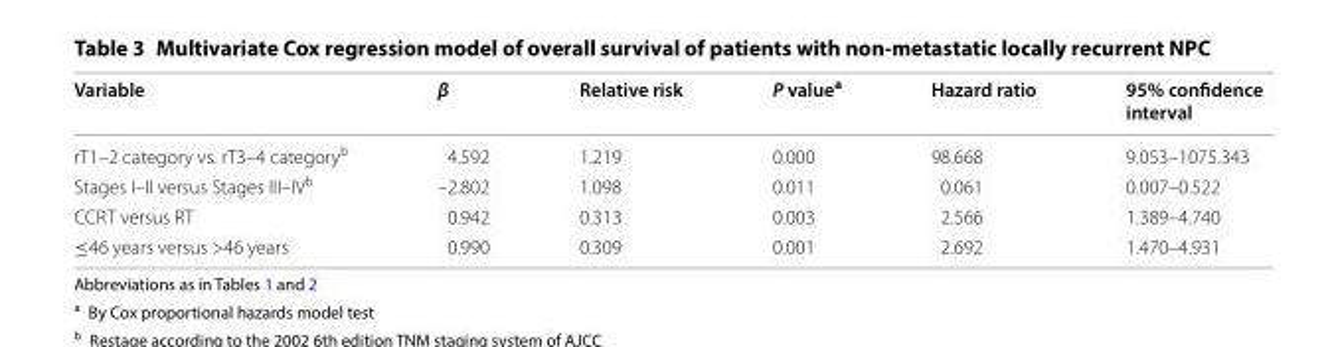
<table><thead><tr><td>Variable</td><td>β</td><td>Relative risk</td><td>P value<sup>a</sup></td><td>Hazard ratio</td><td>95% confidence interval</td></tr></thead><tbody><tr><td>rT1–2 category vs. rT3–4 category<sup>b</sup></td><td>4.592</td><td>1.219</td><td>0.000</td><td>98.668</td><td>9.053–1075.343</td></tr><tr><td>Stages I–II versus Stages III–IV<sup>b</sup></td><td>–2.802</td><td>1.098</td><td>0.011</td><td>0.061</td><td>0.007–0.522</td></tr><tr><td>CCRT versus RT</td><td>0.942</td><td>0.313</td><td>0.003</td><td>2.566</td><td>1.389–4.740</td></tr><tr><td>≤46 years versus &gt;46 years</td><td>0.990</td><td>0.309</td><td>0.001</td><td>2.692</td><td>1.470–4.931</td></tr></tbody></table>